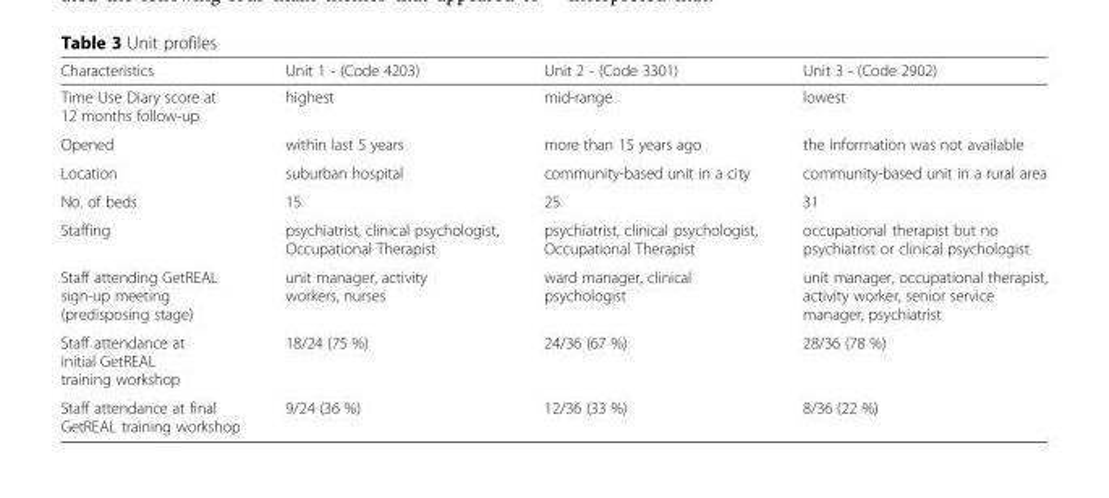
<table><thead><tr><td>Characteristics</td><td>Unit 1 - (Code 4203)</td><td>Unit 2 - (Code 3301)</td><td>Unit 3 - (Code 2902)</td></tr></thead><tbody><tr><td>Time Use Diary score at 12 months follow-up</td><td>highest</td><td>mid-range</td><td>lowest</td></tr><tr><td>Opened</td><td>within last 5 years</td><td>more than 15 years ago</td><td>the information was not available</td></tr><tr><td>Location</td><td>suburban hospital</td><td>community-based unit in a city</td><td>community-based unit in a rural area</td></tr><tr><td>No. of beds</td><td>15</td><td>25</td><td>31</td></tr><tr><td>Staffing</td><td>psychiatrist, clinical psychologist, Occupational Therapist</td><td>psychiatrist, clinical psychologist, Occupational Therapist</td><td>occupational therapist but no psychiatrist or clinical psychologist</td></tr><tr><td>Staff attending GetREAL sign-up meeting (predisposing stage)</td><td>unit manager, activity workers, nurses</td><td>ward manager, clinical psychologist</td><td>unit manager, occupational therapist, activity worker, senior service manager, psychiatrist</td></tr><tr><td>Staff attendance at initial GetREAL training workshop</td><td>18/24 (75 %)</td><td>24/36 (67 %)</td><td>28/36 (78 %)</td></tr><tr><td>Staff attendance at final GetREAL training workshop</td><td>9/24 (36 %)</td><td>12/36 (33 %)</td><td>8/36 (22 %)</td></tr></tbody></table>